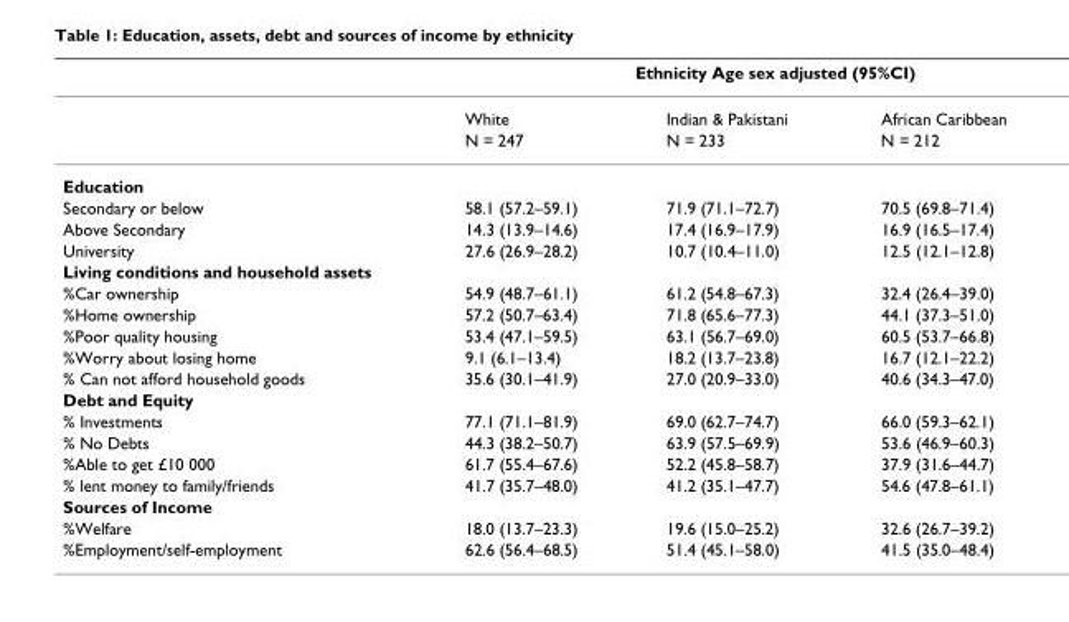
<table><thead><tr><td rowspan="2"></td><td colspan="3">Ethnicity Age sex adjusted (95%CI)</td></tr><tr><td>White</td><td>Indian &amp; Pakistani</td><td>African Caribbean</td></tr></thead><tbody><tr><td></td><td>N = 247</td><td>N = 233</td><td>N = 212</td></tr><tr><td colspan="4">Education</td></tr><tr><td>Secondary or below</td><td>58.1 (57.2–59.1)</td><td>71.9 (71.1–72.7)</td><td>70.5 (69.8–71.4)</td></tr><tr><td>Above Secondary</td><td>14.3 (13.9–14.6)</td><td>17.4 (16.9–17.9)</td><td>16.9 (16.5–17.4)</td></tr><tr><td>University</td><td>27.6 (26.9–28.2)</td><td>10.7 (10.4–11.0)</td><td>12.5 (12.1–12.8)</td></tr><tr><td colspan="4">Living conditions and household assets</td></tr><tr><td>%Car ownership</td><td>54.9 (48.7–61.1)</td><td>61.2 (54.8–67.3)</td><td>32.4 (26.4–39.0)</td></tr><tr><td>%Home ownership</td><td>57.2 (50.7–63.4)</td><td>71.8 (65.6–77.3)</td><td>44.1 (37.3–51.0)</td></tr><tr><td>%Poor quality housing</td><td>53.4 (47.1–59.5)</td><td>63.1 (56.7–69.0)</td><td>60.5 (53.7–66.8)</td></tr><tr><td>%Worry about losing home</td><td>9.1 (6.1–13.4)</td><td>18.2 (13.7–23.8)</td><td>16.7 (12.1–22.2)</td></tr><tr><td>% Can not afford household goods</td><td>35.6 (30.1–41.9)</td><td>27.0 (20.9–33.0)</td><td>40.6 (34.3–47.0)</td></tr><tr><td colspan="4">Debt and Equity</td></tr><tr><td>% Investments</td><td>77.1 (71.1–81.9)</td><td>69.0 (62.7–74.7)</td><td>66.0 (59.3–62.1)</td></tr><tr><td>% No Debts</td><td>44.3 (38.2–50.7)</td><td>63.9 (57.5–69.9)</td><td>53.6 (46.9–60.3)</td></tr><tr><td>%Able to get £10 000</td><td>61.7 (55.4–67.6)</td><td>52.2 (45.8–58.7)</td><td>37.9 (31.6–44.7)</td></tr><tr><td>% lent money to family/friends</td><td>41.7 (35.7–48.0)</td><td>41.2 (35.1–47.7)</td><td>54.6 (47.8–61.1)</td></tr><tr><td colspan="4">Sources of Income</td></tr><tr><td>%Welfare</td><td>18.0 (13.7–23.3)</td><td>19.6 (15.0–25.2)</td><td>32.6 (26.7–39.2)</td></tr><tr><td>%Employment/self-employment</td><td>62.6 (56.4–68.5)</td><td>51.4 (45.1–58.0)</td><td>41.5 (35.0–48.4)</td></tr></tbody></table>